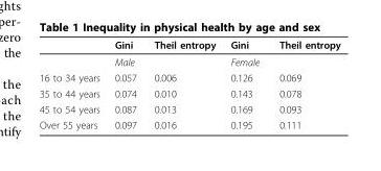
<table><thead><tr><td></td><td>Gini</td><td>Theil entropy</td><td>Gini</td><td>Theil entropy</td></tr></thead><tbody><tr><td></td><td>Male</td><td></td><td>Female</td><td></td></tr><tr><td>16 to 34 years</td><td>0.057</td><td>0.006</td><td>0.126</td><td>0.069</td></tr><tr><td>35 to 44 years</td><td>0.074</td><td>0.010</td><td>0.143</td><td>0.078</td></tr><tr><td>45 to 54 years</td><td>0.087</td><td>0.013</td><td>0.169</td><td>0.093</td></tr><tr><td>Over 55 years</td><td>0.097</td><td>0.016</td><td>0.195</td><td>0.111</td></tr></tbody></table>